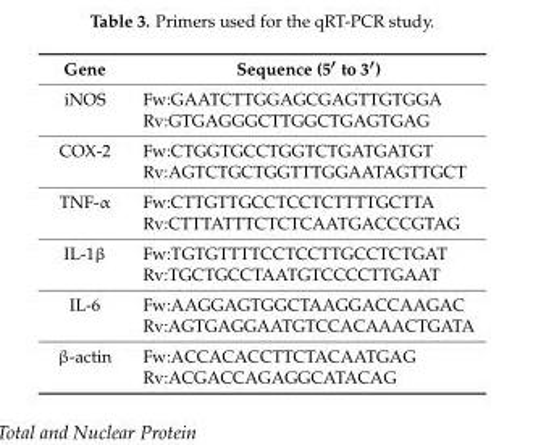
<table><thead><tr><td>Gene</td><td>Sequence (5′ to 3′)</td></tr></thead><tbody><tr><td rowspan="2">iNOS</td><td>Fw:GAATCTTGGAGCGAGTTGTGGA</td></tr><tr><td>Rv:GTGAGGGCTTGGCTGAGTGAG</td></tr><tr><td rowspan="2">COX-2</td><td>Fw:CTGGTGCCTGGTCTGATGATGT</td></tr><tr><td>Rv:AGTCTGCTGGTTTGGAATAGTTGCT</td></tr><tr><td rowspan="2">TNF-α</td><td>Fw:CTTGTTGCCTCCTCTTTTGCTTA</td></tr><tr><td>Rv:CTTTATTTCTCTCAATGACCCGTAG</td></tr><tr><td rowspan="2">IL-1β</td><td>Fw:TGTGTTTTCCTCCTTGCCTCTGAT</td></tr><tr><td>Rv:TGCTGCCTAATGTCCCCTTGAAT</td></tr><tr><td rowspan="2">IL-6</td><td>Fw:AAGGAGTGGCTAAGGACCAAGAC</td></tr><tr><td>Rv:AGTGAGGAATGTCCACAAACTGATA</td></tr><tr><td rowspan="2">β-actin</td><td>Fw:ACCACACCTTCTACAATGAG</td></tr><tr><td>Rv:ACGACCAGAGGCATACAG</td></tr></tbody></table>